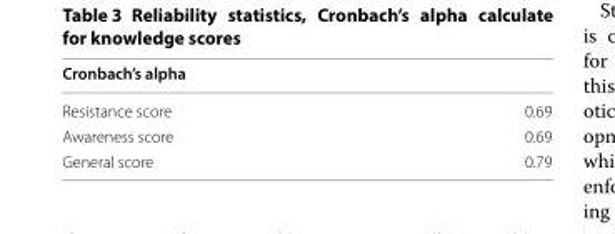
<table><thead><tr><td colspan="2">Cronbach’s alpha</td></tr><tr><td>Resistance score</td><td>0.69</td></tr></thead><tbody><tr><td>Awareness score</td><td>0.69</td></tr><tr><td>General score</td><td>0.79</td></tr></tbody></table>